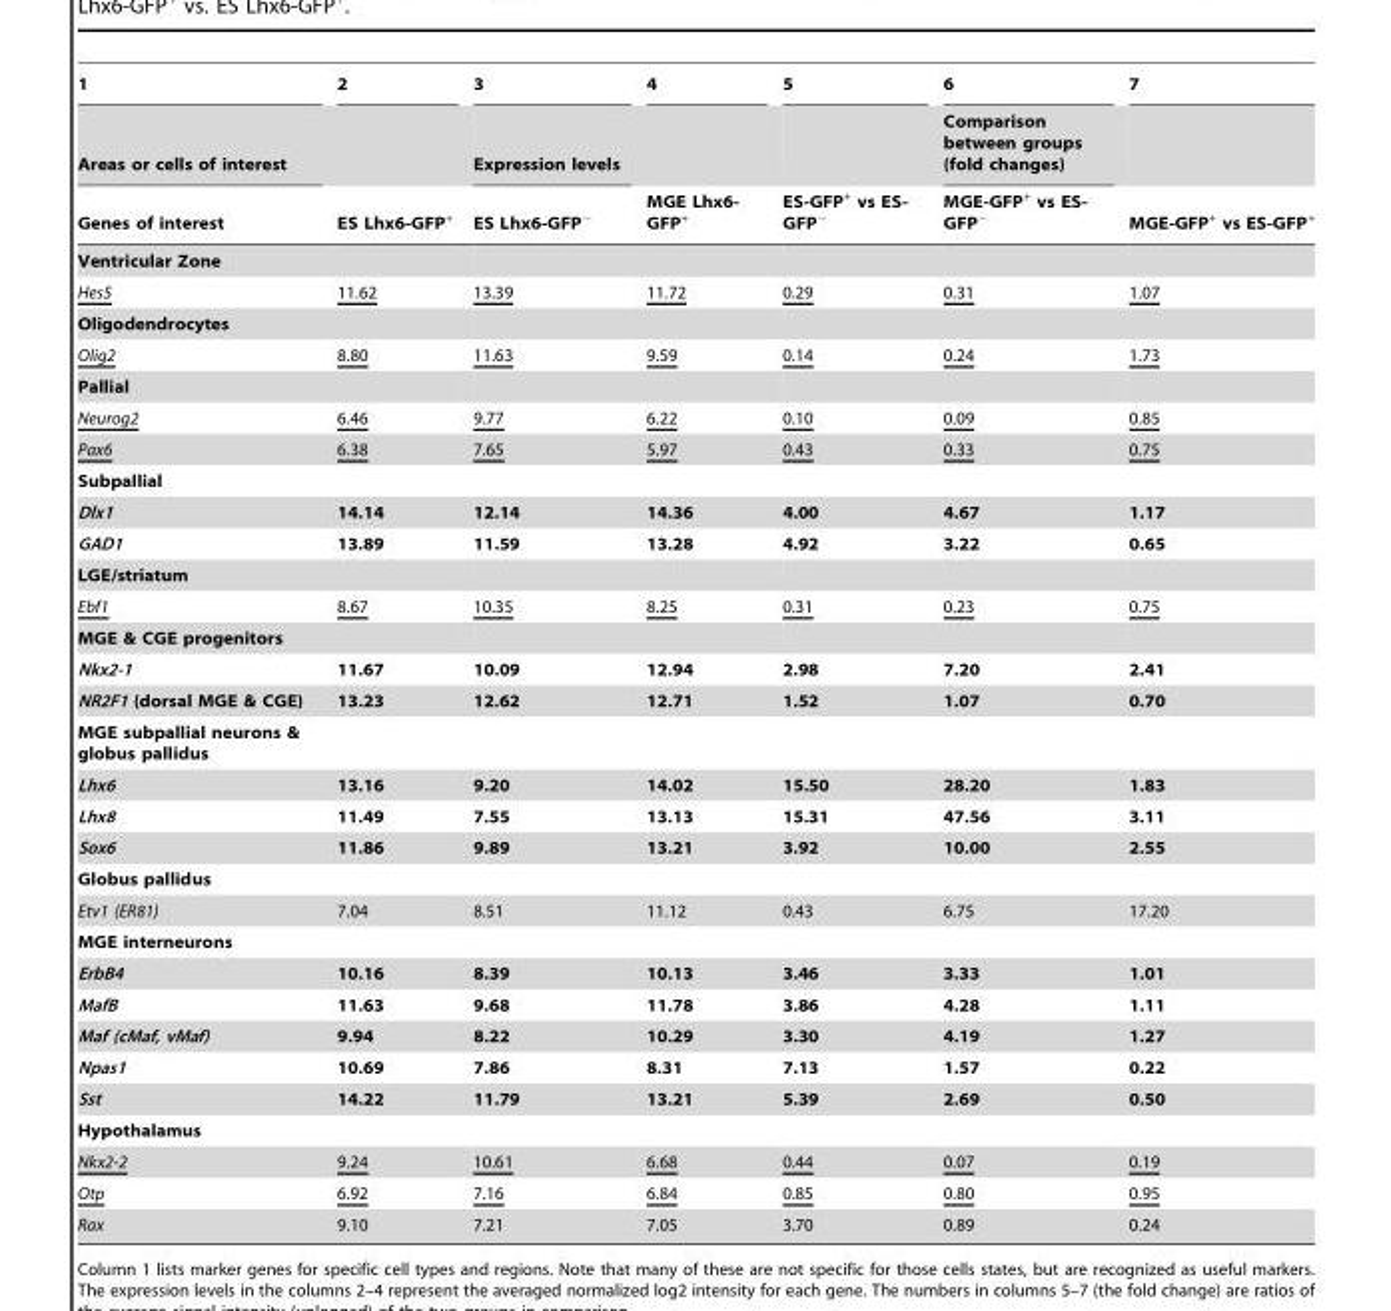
<table><thead><tr><td rowspan="3">1 Areas or cells of interest Genes of interest</td><td rowspan="3">2 ES Lhx6-GFP<sup>+</sup></td><td rowspan="3">3 Expression levels ES Lhx6-GFP<sup>−</sup></td><td rowspan="3">4 MGE Lhx6- GFP<sup>+</sup></td><td rowspan="3">5 ES-GFP<sup>+</sup> vs ES- GFP<sup>−</sup></td><td rowspan="3">6 Comparison between groups (fold changes) MGE-GFP<sup>+</sup> vs ES- GFP<sup>−</sup></td><td rowspan="3">7 MGE-GFP<sup>+</sup> vs ES-GFP<sup>+</sup></td></tr><tr></tr><tr></tr></thead><tbody><tr><td colspan="7">Ventricular Zone</td></tr><tr><td>Hes5</td><td>11.62</td><td>13.39</td><td>11.72</td><td>0.29</td><td>0.31</td><td>1.07</td></tr><tr><td colspan="7">Oligodendrocytes</td></tr><tr><td>Olig2</td><td>8.80</td><td>11.63</td><td>9.59</td><td>0.14</td><td>0.24</td><td>1.73</td></tr><tr><td colspan="7">Pallial</td></tr><tr><td>Neurog2</td><td>6.46</td><td>9.77</td><td>6.22</td><td>0.10</td><td>0.09</td><td>0.85</td></tr><tr><td>Pax6</td><td>6.38</td><td>7.65</td><td>5.97</td><td>0.43</td><td>0.33</td><td>0.75</td></tr><tr><td colspan="7">Subpallial</td></tr><tr><td>Dlx1</td><td>14.14</td><td>12.14</td><td>14.36</td><td>4.00</td><td>4.67</td><td>1.17</td></tr><tr><td>GAD1</td><td>13.89</td><td>11.59</td><td>13.28</td><td>4.92</td><td>3.22</td><td>0.65</td></tr><tr><td colspan="7">LGE/striatum</td></tr><tr><td>Ebf1</td><td>8.67</td><td>10.35</td><td>8.25</td><td>0.31</td><td>0.23</td><td>0.75</td></tr><tr><td colspan="7">MGE &amp; CGE progenitors</td></tr><tr><td>Nkx2-1</td><td>11.67</td><td>10.09</td><td>12.94</td><td>2.98</td><td>7.20</td><td>2.41</td></tr><tr><td>NR2F1 (dorsal MGE &amp; CGE)</td><td>13.23</td><td>12.62</td><td>12.71</td><td>1.52</td><td>1.07</td><td>0.70</td></tr><tr><td colspan="7">MGE subpallial neurons &amp; globus pallidus</td></tr><tr><td>Lhx6</td><td>13.16</td><td>9.20</td><td>14.02</td><td>15.50</td><td>28.20</td><td>1.83</td></tr><tr><td>Lhx8</td><td>11.49</td><td>7.55</td><td>13.13</td><td>15.31</td><td>47.56</td><td>3.11</td></tr><tr><td>Sox6</td><td>11.86</td><td>9.89</td><td>13.21</td><td>3.92</td><td>10.00</td><td>2.55</td></tr><tr><td colspan="7">Globus pallidus</td></tr><tr><td>Etv1 (ER81)</td><td>7.04</td><td>8.51</td><td>11.12</td><td>0.43</td><td>6.75</td><td>17.20</td></tr><tr><td colspan="7">MGE interneurons</td></tr><tr><td>ErbB4</td><td>10.16</td><td>8.39</td><td>10.13</td><td>3.46</td><td>3.33</td><td>1.01</td></tr><tr><td>MafB</td><td>11.63</td><td>9.68</td><td>11.78</td><td>3.86</td><td>4.28</td><td>1.11</td></tr><tr><td>Maf (cMaf, vMaf)</td><td>9.94</td><td>8.22</td><td>10.29</td><td>3.30</td><td>4.19</td><td>1.27</td></tr><tr><td>Npas1</td><td>10.69</td><td>7.86</td><td>8.31</td><td>7.13</td><td>1.57</td><td>0.22</td></tr><tr><td>Sst</td><td>14.22</td><td>11.79</td><td>13.21</td><td>5.39</td><td>2.69</td><td>0.50</td></tr><tr><td colspan="7">Hypothalamus</td></tr><tr><td>Nkx2-2</td><td>9.24</td><td>10.61</td><td>6.68</td><td>0.44</td><td>0.07</td><td>0.19</td></tr><tr><td>Otp</td><td>6.92</td><td>7.16</td><td>6.84</td><td>0.85</td><td>0.80</td><td>0.95</td></tr><tr><td>Rax</td><td>9.10</td><td>7.21</td><td>7.05</td><td>3.70</td><td>0.89</td><td>0.24</td></tr></tbody></table>